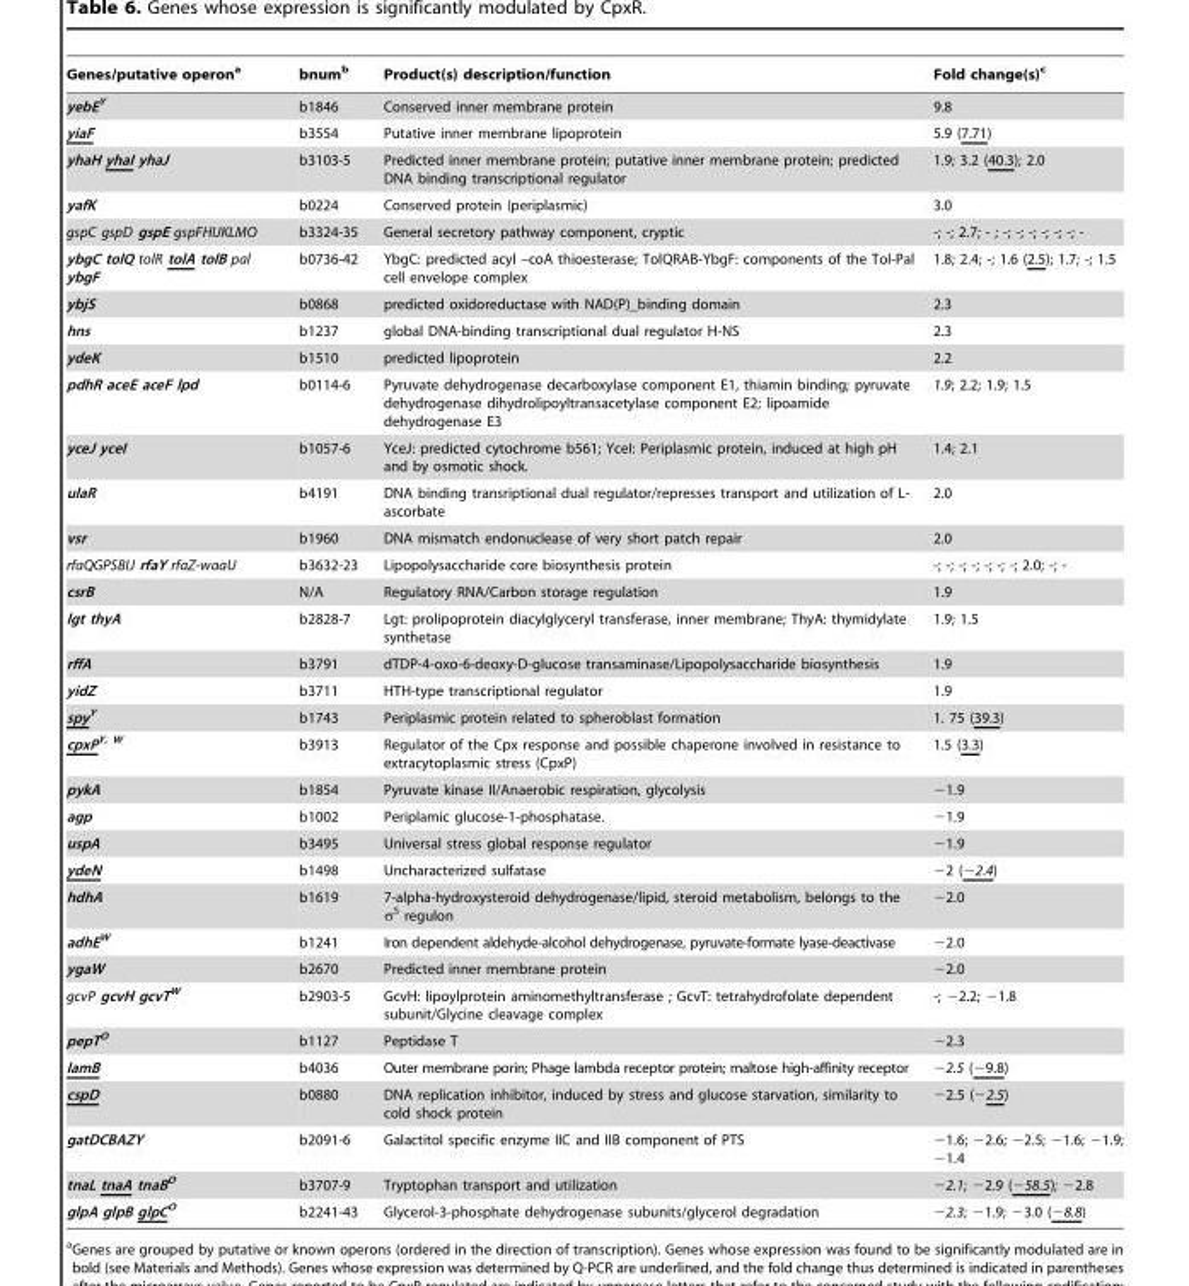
<table><thead><tr><td>Genes/putative operon<sup>a</sup></td><td>bnum<sup>b</sup></td><td>Product(s) description/function</td><td>Fold change(s)<sup>c</sup></td></tr></thead><tbody><tr><td>yebE<sup>Y</sup></td><td>b1846</td><td>Conserved inner membrane protein</td><td>9.8</td></tr><tr><td>yiaF</td><td>b3554</td><td>Putative inner membrane lipoprotein</td><td>5.9 (7.71)</td></tr><tr><td>yhaH yhaI yhaJ</td><td>b3103-5</td><td>Predicted inner membrane protein; putative inner membrane protein; predicted DNA binding transcriptional regulator</td><td>1.9; 3.2 (40.3); 2.0</td></tr><tr><td>yafK</td><td>b0224</td><td>Conserved protein (periplasmic)</td><td>3.0</td></tr><tr><td>gspC gspD gspE gspFHIJKLMO</td><td>b3324-35</td><td>General secretory pathway component, cryptic</td><td>-; -; 2.7; - ; -; -; -; -; -; -; -</td></tr><tr><td>ybgC tolQ tolR tolA tolB pal ybgF</td><td>b0736-42</td><td>YbgC: predicted acyl –coA thioesterase; TolQRAB-YbgF: components of the Tol-Pal cell envelope complex</td><td>1.8; 2.4; -; 1.6 (2.5); 1.7; -; 1.5</td></tr><tr><td>ybjS</td><td>b0868</td><td>predicted oxidoreductase with NAD(P)_binding domain</td><td>2.3</td></tr><tr><td>hns</td><td>b1237</td><td>global DNA-binding transcriptional dual regulator H-NS</td><td>2.3</td></tr><tr><td>ydeK</td><td>b1510</td><td>predicted lipoprotein</td><td>2.2</td></tr><tr><td>pdhR aceE aceF lpd</td><td>b0114-6</td><td>Pyruvate dehydrogenase decarboxylase component E1, thiamin binding; pyruvate dehydrogenase dihydrolipoyltransacetylase component E2; lipoamide dehydrogenase E3</td><td>1.9; 2.2; 1.9; 1.5</td></tr><tr><td>yceJ yceI</td><td>b1057-6</td><td>YceJ: predicted cytochrome b561; YceI: Periplasmic protein, induced at high pH and by osmotic shock.</td><td>1.4; 2.1</td></tr><tr><td>ulaR</td><td>b4191</td><td>DNA binding transriptional dual regulator/represses transport and utilization of L- ascorbate</td><td>2.0</td></tr><tr><td>vsr</td><td>b1960</td><td>DNA mismatch endonuclease of very short patch repair</td><td>2.0</td></tr><tr><td>rfaQGPSBIJ rfaY rfaZ-waaU</td><td>b3632-23</td><td>Lipopolysaccharide core biosynthesis protein</td><td>-; -; -; -; -; -; -; 2.0; -; -</td></tr><tr><td>csrB</td><td>N/A</td><td>Regulatory RNA/Carbon storage regulation</td><td>1.9</td></tr><tr><td>lgt thyA</td><td>b2828-7</td><td>Lgt: prolipoprotein diacylglyceryl transferase, inner membrane; ThyA: thymidylate synthetase</td><td>1.9; 1.5</td></tr><tr><td>rffA</td><td>b3791</td><td>dTDP-4-oxo-6-deoxy-D-glucose transaminase/Lipopolysaccharide biosynthesis</td><td>1.9</td></tr><tr><td>yidZ</td><td>b3711</td><td>HTH-type transcriptional regulator</td><td>1.9</td></tr><tr><td>spy<sup>Y</sup></td><td>b1743</td><td>Periplasmic protein related to spheroblast formation</td><td>1. 75 (39.3)</td></tr><tr><td>cpxP<sup>Y, W</sup></td><td>b3913</td><td>Regulator of the Cpx response and possible chaperone involved in resistance to extracytoplasmic stress (CpxP)</td><td>1.5 (3.3)</td></tr><tr><td>pykA</td><td>b1854</td><td>Pyruvate kinase II/Anaerobic respiration, glycolysis</td><td>−1.9</td></tr><tr><td>agp</td><td>b1002</td><td>Periplamic glucose-1-phosphatase.</td><td>−1.9</td></tr><tr><td>uspA</td><td>b3495</td><td>Universal stress global response regulator</td><td>−1.9</td></tr><tr><td>ydeN</td><td>b1498</td><td>Uncharacterized sulfatase</td><td>−2 (−2.4)</td></tr><tr><td>hdhA</td><td>b1619</td><td>7-alpha-hydroxysteroid dehydrogenase/lipid, steroid metabolism, belongs to the σ<sup>S</sup> regulon</td><td>−2.0</td></tr><tr><td>adhE<sup>W</sup></td><td>b1241</td><td>Iron dependent aldehyde-alcohol dehydrogenase, pyruvate-formate lyase-deactivase</td><td>−2.0</td></tr><tr><td>ygaW</td><td>b2670</td><td>Predicted inner membrane protein</td><td>−2.0</td></tr><tr><td>gcvP gcvH gcvT<sup>W</sup></td><td>b2903-5</td><td>GcvH: lipoylprotein aminomethyltransferase ; GcvT: tetrahydrofolate dependent subunit/Glycine cleavage complex</td><td>-; −2.2; −1.8</td></tr><tr><td>pepT<sup>O</sup></td><td>b1127</td><td>Peptidase T</td><td>−2.3</td></tr><tr><td>lamB</td><td>b4036</td><td>Outer membrane porin; Phage lambda receptor protein; maltose high-affinity receptor</td><td>−2.5 (−9.8)</td></tr><tr><td>cspD</td><td>b0880</td><td>DNA replication inhibitor, induced by stress and glucose starvation, similarity to cold shock protein</td><td>−2.5 (−2.5)</td></tr><tr><td>gatDCBAZY</td><td>b2091-6</td><td>Galactitol specific enzyme IIC and IIB component of PTS</td><td>−1.6; −2.6; −2.5; −1.6; −1.9; −1.4</td></tr><tr><td>tnaL tnaA tnaB<sup>O</sup></td><td>b3707-9</td><td>Tryptophan transport and utilization</td><td>−2.1; −2.9 (−58.5); −2.8</td></tr><tr><td>glpA glpB glpC<sup>O</sup></td><td>b2241-43</td><td>Glycerol-3-phosphate dehydrogenase subunits/glycerol degradation</td><td>−2.3; −1.9; −3.0 (−8.8)</td></tr></tbody></table>